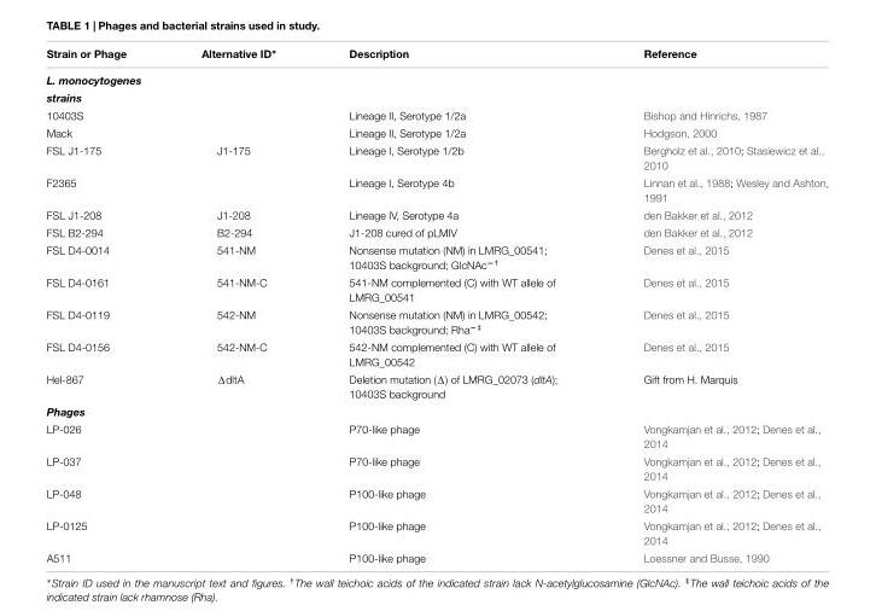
<table><thead><tr><td>Strain or Phage</td><td>Alternative ID∗</td><td>Description</td><td>Reference</td></tr></thead><tbody><tr><td colspan="4">L. monocytogenes</td></tr><tr><td colspan="4">strains</td></tr><tr><td>10403S</td><td></td><td>Lineage II, Serotype 1/2a</td><td>Bishop and Hinrichs, 1987</td></tr><tr><td>Mack</td><td></td><td>Lineage II, Serotype 1/2a</td><td>Hodgson, 2000</td></tr><tr><td>FSL J1-175</td><td>J1-175</td><td>Lineage I, Serotype 1/2b</td><td>Bergholz et al., 2010; Stasiewicz et al., 2010</td></tr><tr><td>F2365</td><td></td><td>Lineage I, Serotype 4b</td><td>Linnan et al., 1988; Wesley and Ashton, 1991</td></tr><tr><td>FSL J1-208</td><td>J1-208</td><td>Lineage IV, Serotype 4a</td><td>den Bakker et al., 2012</td></tr><tr><td>FSL B2-294</td><td>B2-294</td><td>J1-208 cured of pLMIV</td><td>den Bakker et al., 2012</td></tr><tr><td>FSL D4-0014</td><td>541-NM</td><td>Nonsense mutation (NM) in LMRG_00541; 10403S background; GlcNAc<sup>−†</sup></td><td>Denes et al., 2015</td></tr><tr><td>FSL D4-0161</td><td>541-NM-C</td><td>541-NM complemented (C) with WT allele of LMRG_00541</td><td>Denes et al., 2015</td></tr><tr><td>FSL D4-0119</td><td>542-NM</td><td>Nonsense mutation (NM) in LMRG_00542; 10403S background; Rha<sup>−‡</sup></td><td>Denes et al., 2015</td></tr><tr><td>FSL D4-0156</td><td>542-NM-C</td><td>542-NM complemented (C) with WT allele of LMRG_00542</td><td>Denes et al., 2015</td></tr><tr><td>Hel-867</td><td>ΔdltA</td><td>Deletion mutation (Δ) of LMRG_02073 (dltA); 10403S background</td><td>Gift from H. Marquis</td></tr><tr><td colspan="4">Phages</td></tr><tr><td>LP-026</td><td></td><td>P70-like phage</td><td>Vongkamjan et al., 2012; Denes et al., 2014</td></tr><tr><td>LP-037</td><td></td><td>P70-like phage</td><td>Vongkamjan et al., 2012; Denes et al., 2014</td></tr><tr><td>LP-048</td><td></td><td>P100-like phage</td><td>Vongkamjan et al., 2012; Denes et al., 2014</td></tr><tr><td>LP-0125</td><td></td><td>P100-like phage</td><td>Vongkamjan et al., 2012; Denes et al., 2014</td></tr><tr><td>A511</td><td></td><td>P100-like phage</td><td>Loessner and Busse, 1990</td></tr></tbody></table>